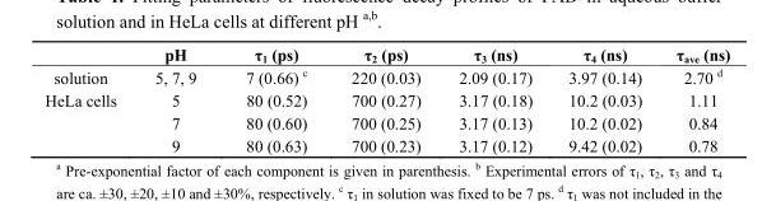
<table><thead><tr><td></td><td>pH</td><td>τ<sub>1</sub> (ps)</td><td>τ<sub>2</sub> (ps)</td><td>τ<sub>3</sub> (ns)</td><td>τ<sub>4</sub> (ns)</td><td>τ<sub>ave</sub> (ns)</td></tr></thead><tbody><tr><td>solution</td><td>5, 7, 9</td><td>7 (0.66) c</td><td>220 (0.03)</td><td>2.09 (0.17)</td><td>3.97 (0.14)</td><td>2.70 d</td></tr><tr><td rowspan="3">HeLa cells</td><td>5</td><td>80 (0.52)</td><td>700 (0.27)</td><td>3.17 (0.18)</td><td>10.2 (0.03)</td><td>1.11</td></tr><tr><td>7</td><td>80 (0.60)</td><td>700 (0.25)</td><td>3.17 (0.13)</td><td>10.2 (0.02)</td><td>0.84</td></tr><tr><td>9</td><td>80 (0.63)</td><td>700 (0.23)</td><td>3.17 (0.12)</td><td>9.42 (0.02)</td><td>0.78</td></tr></tbody></table>